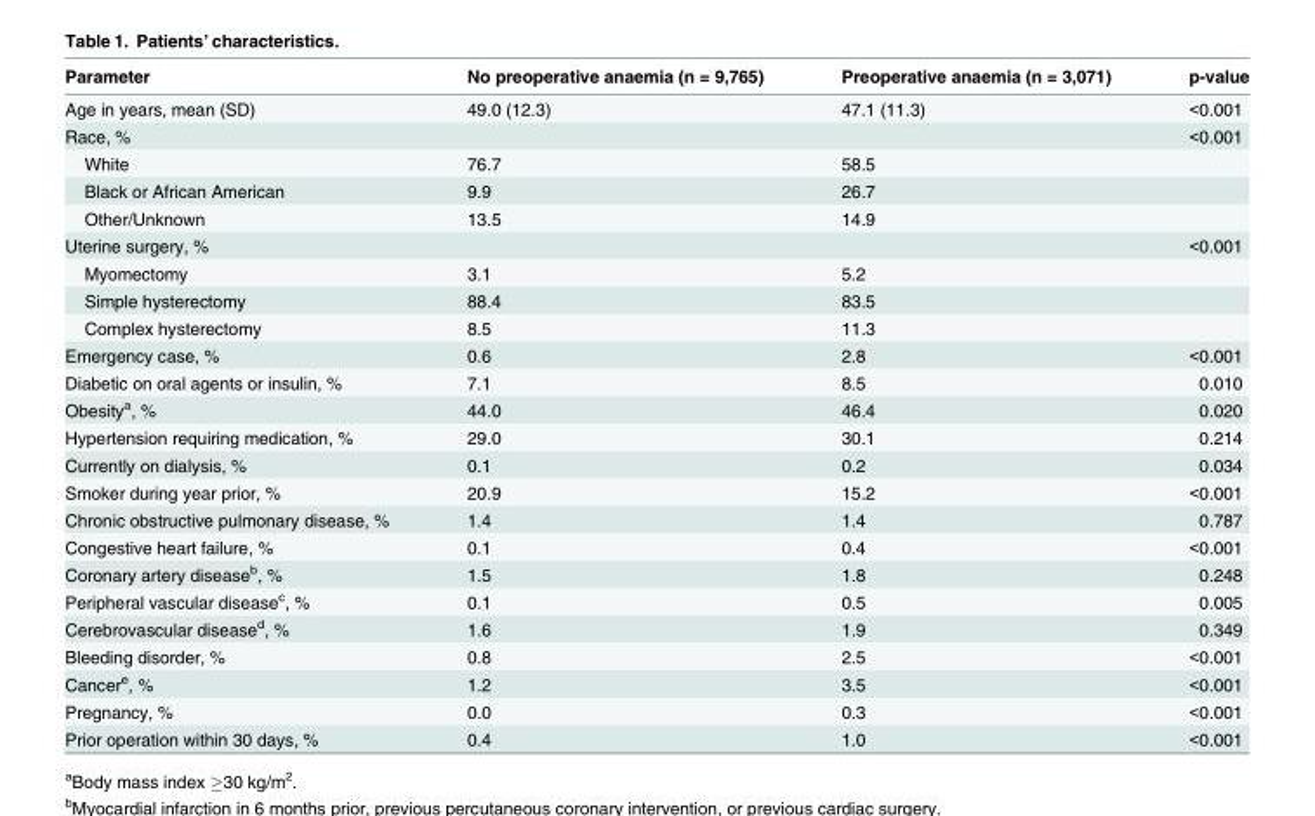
<table><thead><tr><td>Parameter</td><td>No preoperative anaemia (n = 9,765)</td><td>Preoperative anaemia (n = 3,071)</td><td>p-value</td></tr></thead><tbody><tr><td>Age in years, mean (SD)</td><td>49.0 (12.3)</td><td>47.1 (11.3)</td><td>&lt;0.001</td></tr><tr><td>Race, %</td><td></td><td></td><td>&lt;0.001</td></tr><tr><td>White</td><td>76.7</td><td>58.5</td><td></td></tr><tr><td>Black or African American</td><td>9.9</td><td>26.7</td><td></td></tr><tr><td>Other/Unknown</td><td>13.5</td><td>14.9</td><td></td></tr><tr><td>Uterine surgery, %</td><td></td><td></td><td>&lt;0.001</td></tr><tr><td>Myomectomy</td><td>3.1</td><td>5.2</td><td></td></tr><tr><td>Simple hysterectomy</td><td>88.4</td><td>83.5</td><td></td></tr><tr><td>Complex hysterectomy</td><td>8.5</td><td>11.3</td><td></td></tr><tr><td>Emergency case, %</td><td>0.6</td><td>2.8</td><td>&lt;0.001</td></tr><tr><td>Diabetic on oral agents or insulin, %</td><td>7.1</td><td>8.5</td><td>0.010</td></tr><tr><td>Obesity<sup>a</sup>, %</td><td>44.0</td><td>46.4</td><td>0.020</td></tr><tr><td>Hypertension requiring medication, %</td><td>29.0</td><td>30.1</td><td>0.214</td></tr><tr><td>Currently on dialysis, %</td><td>0.1</td><td>0.2</td><td>0.034</td></tr><tr><td>Smoker during year prior, %</td><td>20.9</td><td>15.2</td><td>&lt;0.001</td></tr><tr><td>Chronic obstructive pulmonary disease, %</td><td>1.4</td><td>1.4</td><td>0.787</td></tr><tr><td>Congestive heart failure, %</td><td>0.1</td><td>0.4</td><td>&lt;0.001</td></tr><tr><td>Coronary artery disease<sup>b</sup>, %</td><td>1.5</td><td>1.8</td><td>0.248</td></tr><tr><td>Peripheral vascular disease<sup>c</sup>, %</td><td>0.1</td><td>0.5</td><td>0.005</td></tr><tr><td>Cerebrovascular disease<sup>d</sup>, %</td><td>1.6</td><td>1.9</td><td>0.349</td></tr><tr><td>Bleeding disorder, %</td><td>0.8</td><td>2.5</td><td>&lt;0.001</td></tr><tr><td>Cancer<sup>e</sup>, %</td><td>1.2</td><td>3.5</td><td>&lt;0.001</td></tr><tr><td>Pregnancy, %</td><td>0.0</td><td>0.3</td><td>&lt;0.001</td></tr><tr><td>Prior operation within 30 days, %</td><td>0.4</td><td>1.0</td><td>&lt;0.001</td></tr></tbody></table>